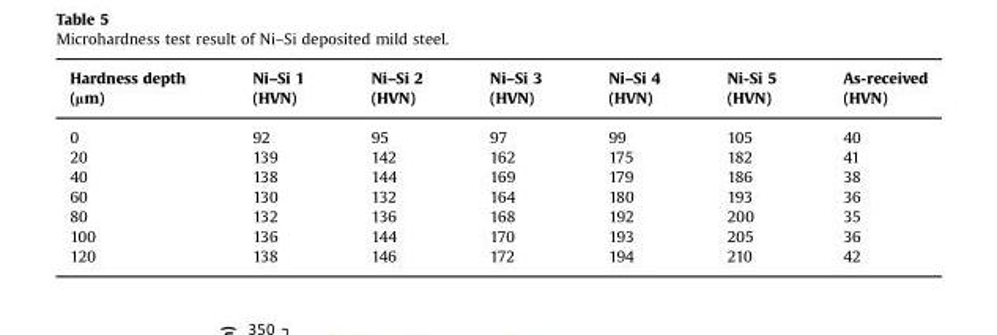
<table><thead><tr><td>Hardness depth (µm)</td><td>Ni–Si 1 (HVN)</td><td>Ni–Si 2 (HVN)</td><td>Ni–Si 3 (HVN)</td><td>Ni–Si 4 (HVN)</td><td>Ni-Si 5 (HVN)</td><td>As-received (HVN)</td></tr></thead><tbody><tr><td>0</td><td>92</td><td>95</td><td>97</td><td>99</td><td>105</td><td>40</td></tr><tr><td>20</td><td>139</td><td>142</td><td>162</td><td>175</td><td>182</td><td>41</td></tr><tr><td>40</td><td>138</td><td>144</td><td>169</td><td>179</td><td>186</td><td>38</td></tr><tr><td>60</td><td>130</td><td>132</td><td>164</td><td>180</td><td>193</td><td>36</td></tr><tr><td>80</td><td>132</td><td>136</td><td>168</td><td>192</td><td>200</td><td>35</td></tr><tr><td>100</td><td>136</td><td>144</td><td>170</td><td>193</td><td>205</td><td>36</td></tr><tr><td>120</td><td>138</td><td>146</td><td>172</td><td>194</td><td>210</td><td>42</td></tr></tbody></table>